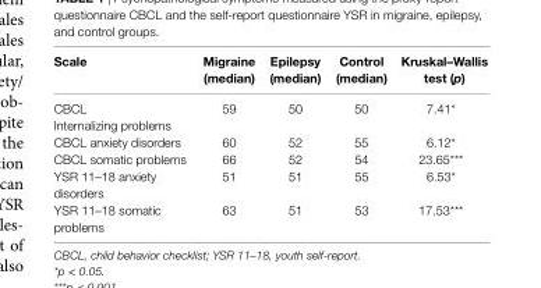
<table><thead><tr><td>scale</td><td>Migraine (median)</td><td>epilepsy (median)</td><td>control (median)</td><td>Kruskal–Wallis test (p)</td></tr></thead><tbody><tr><td>CBCL Internalizing problems</td><td>59</td><td>50</td><td>50</td><td>7.41*</td></tr><tr><td>CBCL anxiety disorders</td><td>60</td><td>52</td><td>55</td><td>6.12*</td></tr><tr><td>CBCL somatic problems</td><td>66</td><td>52</td><td>54</td><td>23.65***</td></tr><tr><td>YSR 11–18 anxiety disorders</td><td>51</td><td>51</td><td>55</td><td>6.53*</td></tr><tr><td>YSR 11–18 somatic problems</td><td>63</td><td>51</td><td>53</td><td>17.53***</td></tr></tbody></table>